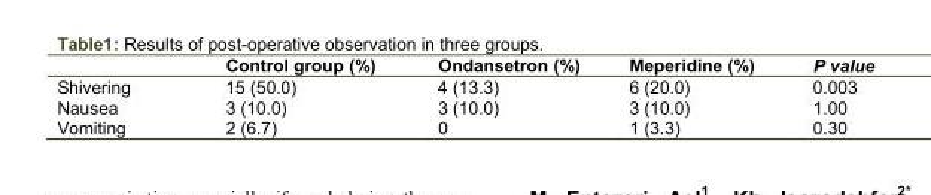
<table><thead><tr><td></td><td>Control group (%)</td><td>Ondansetron (%)</td><td>Meperidine (%)</td><td>P value</td></tr></thead><tbody><tr><td>Shivering</td><td>15 (50.0)</td><td>4 (13.3)</td><td>6 (20.0)</td><td>0.003</td></tr><tr><td>Nausea</td><td>3 (10.0)</td><td>3 (10.0)</td><td>3 (10.0)</td><td>1.00</td></tr><tr><td>Vomiting</td><td>2 (6.7)</td><td>0</td><td>1 (3.3)</td><td>0.30</td></tr></tbody></table>